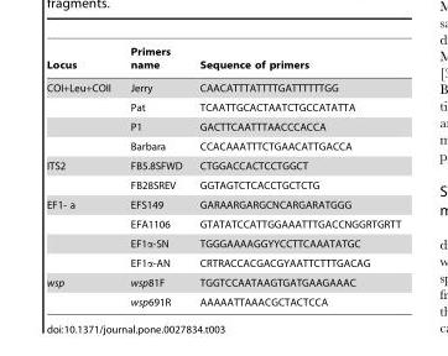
<table><thead><tr><td>Locus</td><td>Primers name</td><td>Sequence of primers</td></tr></thead><tbody><tr><td rowspan="4">COI+Leu+COII</td><td>Jerry</td><td>CAACATTTATTTTGATTTTTTGG</td></tr><tr><td>Pat</td><td>TCAATTGCACTAATCTGCCATATTA</td></tr><tr><td>P1</td><td>GACTTCAATTTAACCCACCA</td></tr><tr><td>Barbara</td><td>CCACAAATTTCTGAACATTGACCA</td></tr><tr><td rowspan="2">ITS2</td><td>FB5.8SFWD</td><td>CTGGACCACTCCTGGCT</td></tr><tr><td>FB28SREV</td><td>GGTAGTCTCACCTGCTCTG</td></tr><tr><td rowspan="4">EF1- a</td><td>EFS149</td><td>GARAARGARGCNCARGARATGGG</td></tr><tr><td>EFA1106</td><td>GTATATCCATTGGAAATTTGACCNGGRTGRTT</td></tr><tr><td>EF1α-SN</td><td>TGGGAAAAGGYYCCTTCAAATATGC</td></tr><tr><td>EF1α-AN</td><td>CRTRACCACGACGYAATTCTTTGACAG</td></tr><tr><td rowspan="2">wsp</td><td>wsp81F</td><td>TGGTCCAATAAGTGATGAAGAAAC</td></tr><tr><td>wsp691R</td><td>AAAAATTAAACGCTACTCCA</td></tr></tbody></table>